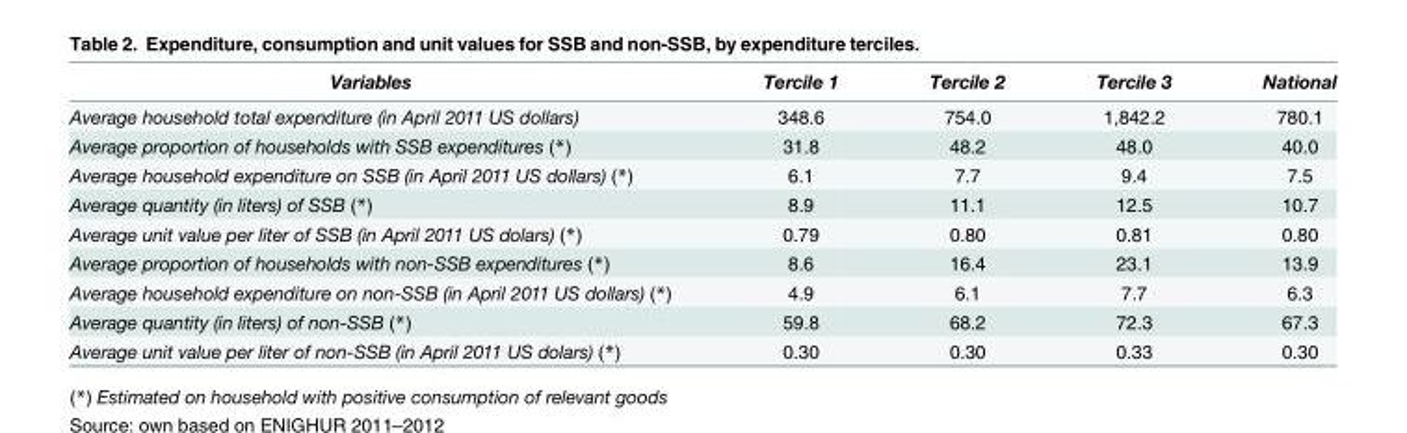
<table><thead><tr><td>Variables</td><td>Tercile 1</td><td>Tercile 2</td><td>Tercile 3</td><td>National</td></tr></thead><tbody><tr><td>Average household total expenditure (in April 2011 US dollars)</td><td>348.6</td><td>754.0</td><td>1,842.2</td><td>780.1</td></tr><tr><td>Average proportion of households with SSB expenditures (*)</td><td>31.8</td><td>48.2</td><td>48.0</td><td>40.0</td></tr><tr><td>Average household expenditure on SSB (in April 2011 US dollars) (*)</td><td>6.1</td><td>7.7</td><td>9.4</td><td>7.5</td></tr><tr><td>Average quantity (in liters) of SSB (*)</td><td>8.9</td><td>11.1</td><td>12.5</td><td>10.7</td></tr><tr><td>Average unit value per liter of SSB (in April 2011 US dolars) (*)</td><td>0.79</td><td>0.80</td><td>0.81</td><td>0.80</td></tr><tr><td>Average proportion of households with non-SSB expenditures (*)</td><td>8.6</td><td>16.4</td><td>23.1</td><td>13.9</td></tr><tr><td>Average household expenditure on non-SSB (in April 2011 US dollars) (*)</td><td>4.9</td><td>6.1</td><td>7.7</td><td>6.3</td></tr><tr><td>Average quantity (in liters) of non-SSB (*)</td><td>59.8</td><td>68.2</td><td>72.3</td><td>67.3</td></tr><tr><td>Average unit value per liter of non-SSB (in April 2011 US dolars) (*)</td><td>0.30</td><td>0.30</td><td>0.33</td><td>0.30</td></tr></tbody></table>